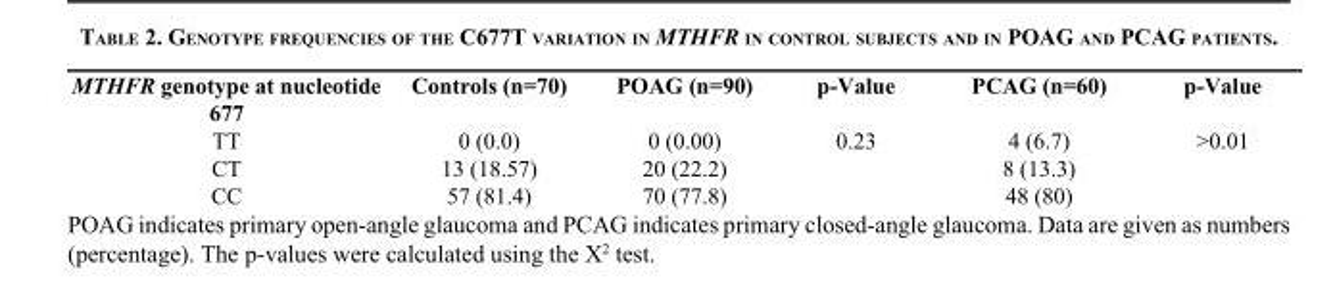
<table><tbody><tr><td>MTHFR genotype at nucleotide 677</td><td>Controls (n=70)</td><td>POAG (n=90)</td><td>p-Value</td><td>PCAG (n=60)</td><td>p-Value</td></tr><tr><td>TT</td><td>0 (0.0)</td><td>0 (0.00)</td><td>0.23</td><td>4 (6.7)</td><td>&gt;0.01</td></tr><tr><td>CT</td><td>13 (18.57)</td><td>20 (22.2)</td><td></td><td>8 (13.3)</td><td></td></tr><tr><td>CC</td><td>57 (81.4)</td><td>70 (77.8)</td><td></td><td>48 (80)</td><td></td></tr></tbody></table>